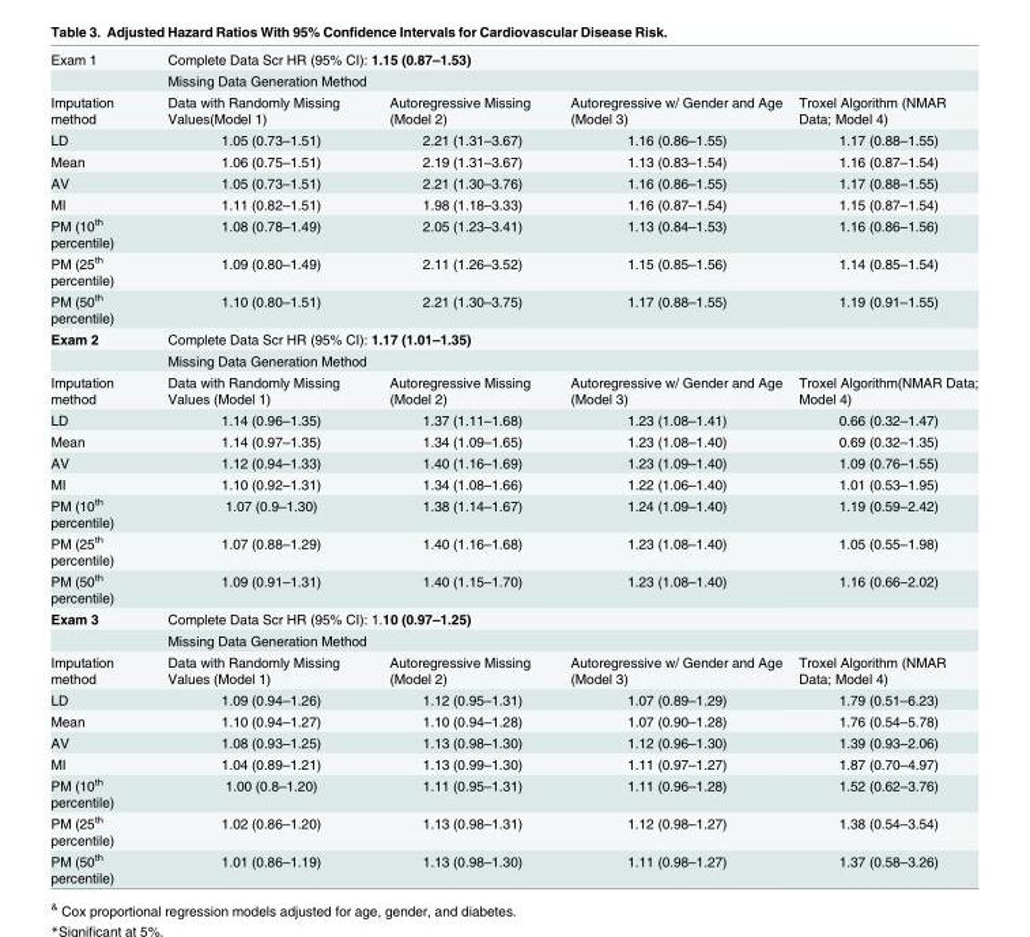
<table><tbody><tr><td rowspan="2">Exam 1</td><td colspan="4">Complete Data Scr HR (95% CI): 1.15 (0.87–1.53)</td></tr><tr><td colspan="4">Missing Data Generation Method</td></tr><tr><td>Imputation method</td><td>Data with Randomly Missing Values(Model 1)</td><td>Autoregressive Missing (Model 2)</td><td>Autoregressive w/ Gender and Age (Model 3)</td><td>Troxel Algorithm (NMAR Data; Model 4)</td></tr><tr><td>LD</td><td>1.05 (0.73–1.51)</td><td>2.21 (1.31–3.67)</td><td>1.16 (0.86–1.55)</td><td>1.17 (0.88–1.55)</td></tr><tr><td>Mean</td><td>1.06 (0.75–1.51)</td><td>2.19 (1.31–3.67)</td><td>1.13 (0.83–1.54)</td><td>1.16 (0.87–1.54)</td></tr><tr><td>AV</td><td>1.05 (0.73–1.51)</td><td>2.21 (1.30–3.76)</td><td>1.16 (0.86–1.55)</td><td>1.17 (0.88–1.55)</td></tr><tr><td>MI</td><td>1.11 (0.82–1.51)</td><td>1.98 (1.18–3.33)</td><td>1.16 (0.87–1.54)</td><td>1.15 (0.87–1.54)</td></tr><tr><td>PM (10<sup>th</sup> percentile)</td><td>1.08 (0.78–1.49)</td><td>2.05 (1.23–3.41)</td><td>1.13 (0.84–1.53)</td><td>1.16 (0.86–1.56)</td></tr><tr><td>PM (25<sup>th</sup> percentile)</td><td>1.09 (0.80–1.49)</td><td>2.11 (1.26–3.52)</td><td>1.15 (0.85–1.56)</td><td>1.14 (0.85–1.54)</td></tr><tr><td>PM (50<sup>th</sup> percentile)</td><td>1.10 (0.80–1.51)</td><td>2.21 (1.30–3.75)</td><td>1.17 (0.88–1.55)</td><td>1.19 (0.91–1.55)</td></tr><tr><td rowspan="2">Exam 2</td><td colspan="4">Complete Data Scr HR (95% CI): 1.17 (1.01–1.35)</td></tr><tr><td colspan="4">Missing Data Generation Method</td></tr><tr><td>Imputation method</td><td>Data with Randomly Missing Values (Model 1)</td><td>Autoregressive Missing (Model 2)</td><td>Autoregressive w/ Gender and Age (Model 3)</td><td>Troxel Algorithm(NMAR Data; Model 4)</td></tr><tr><td>LD</td><td>1.14 (0.96–1.35)</td><td>1.37 (1.11–1.68)</td><td>1.23 (1.08–1.41)</td><td>0.66 (0.32–1.47)</td></tr><tr><td>Mean</td><td>1.14 (0.97–1.35)</td><td>1.34 (1.09–1.65)</td><td>1.23 (1.08–1.40)</td><td>0.69 (0.32–1.35)</td></tr><tr><td>AV</td><td>1.12 (0.94–1.33)</td><td>1.40 (1.16–1.69)</td><td>1.23 (1.09–1.40)</td><td>1.09 (0.76–1.55)</td></tr><tr><td>MI</td><td>1.10 (0.92–1.31)</td><td>1.34 (1.08–1.66)</td><td>1.22 (1.06–1.40)</td><td>1.01 (0.53–1.95)</td></tr><tr><td>PM (10<sup>th</sup> percentile)</td><td>1.07 (0.9–1.30)</td><td>1.38 (1.14–1.67)</td><td>1.24 (1.09–1.40)</td><td>1.19 (0.59–2.42)</td></tr><tr><td>PM (25<sup>th</sup> percentile)</td><td>1.07 (0.88–1.29)</td><td>1.40 (1.16–1.68)</td><td>1.23 (1.08–1.40)</td><td>1.05 (0.55–1.98)</td></tr><tr><td>PM (50<sup>th</sup> percentile)</td><td>1.09 (0.91–1.31)</td><td>1.40 (1.15–1.70)</td><td>1.23 (1.08–1.40)</td><td>1.16 (0.66–2.02)</td></tr><tr><td rowspan="2">Exam 3</td><td colspan="4">Complete Data Scr HR (95% CI): 1.10 (0.97–1.25)</td></tr><tr><td colspan="4">Missing Data Generation Method</td></tr><tr><td>Imputation method</td><td>Data with Randomly Missing Values (Model 1)</td><td>Autoregressive Missing (Model 2)</td><td>Autoregressive w/ Gender and Age (Model 3)</td><td>Troxel Algorithm (NMAR Data; Model 4)</td></tr><tr><td>LD</td><td>1.09 (0.94–1.26)</td><td>1.12 (0.95–1.31)</td><td>1.07 (0.89–1.29)</td><td>1.79 (0.51–6.23)</td></tr><tr><td>Mean</td><td>1.10 (0.94–1.27)</td><td>1.10 (0.94–1.28)</td><td>1.07 (0.90–1.28)</td><td>1.76 (0.54–5.78)</td></tr><tr><td>AV</td><td>1.08 (0.93–1.25)</td><td>1.13 (0.98–1.30)</td><td>1.12 (0.96–1.30)</td><td>1.39 (0.93–2.06)</td></tr><tr><td>MI</td><td>1.04 (0.89–1.21)</td><td>1.13 (0.99–1.30)</td><td>1.11 (0.97–1.27)</td><td>1.87 (0.70–4.97)</td></tr><tr><td>PM (10<sup>th</sup> percentile)</td><td>1.00 (0.8–1.20)</td><td>1.11 (0.95–1.31)</td><td>1.11 (0.96–1.28)</td><td>1.52 (0.62–3.76)</td></tr><tr><td>PM (25<sup>th</sup> percentile)</td><td>1.02 (0.86–1.20)</td><td>1.13 (0.98–1.31)</td><td>1.12 (0.98–1.27)</td><td>1.38 (0.54–3.54)</td></tr><tr><td>PM (50<sup>th</sup> percentile)</td><td>1.01 (0.86–1.19)</td><td>1.13 (0.98–1.30)</td><td>1.11 (0.98–1.27)</td><td>1.37 (0.58–3.26)</td></tr></tbody></table>